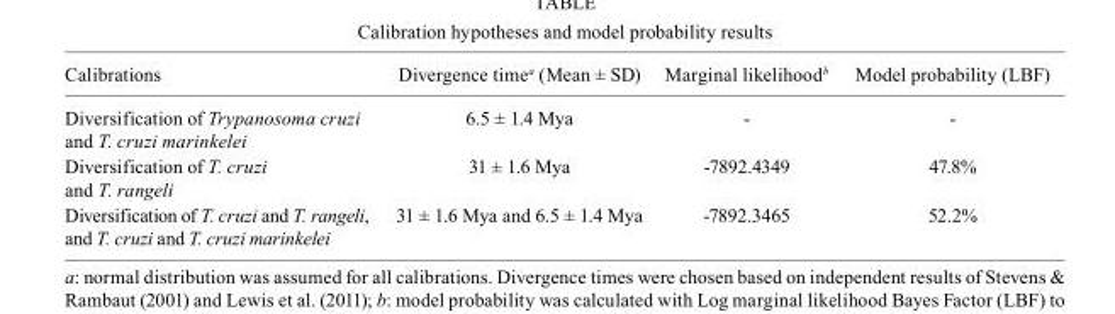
<table><thead><tr><td>Calibrations</td><td>Divergence time<sup>a</sup> (Mean ± SD)</td><td>Marginal likelihood<sup>b</sup></td><td>Model probability (LBF)</td></tr></thead><tbody><tr><td>Diversification of Trypanosoma cruzi and T. cruzi marinkelei</td><td>6.5 ± 1.4 Mya</td><td>-</td><td>-</td></tr><tr><td>Diversification of T. cruzi and T. rangeli</td><td>31 ± 1.6 Mya</td><td>-7892.4349</td><td>47.8%</td></tr><tr><td>Diversification of T. cruzi and T. rangeli, and T. cruzi and T. cruzi marinkelei</td><td>31 ± 1.6 Mya and 6.5 ± 1.4 Mya</td><td>-7892.3465</td><td>52.2%</td></tr></tbody></table>